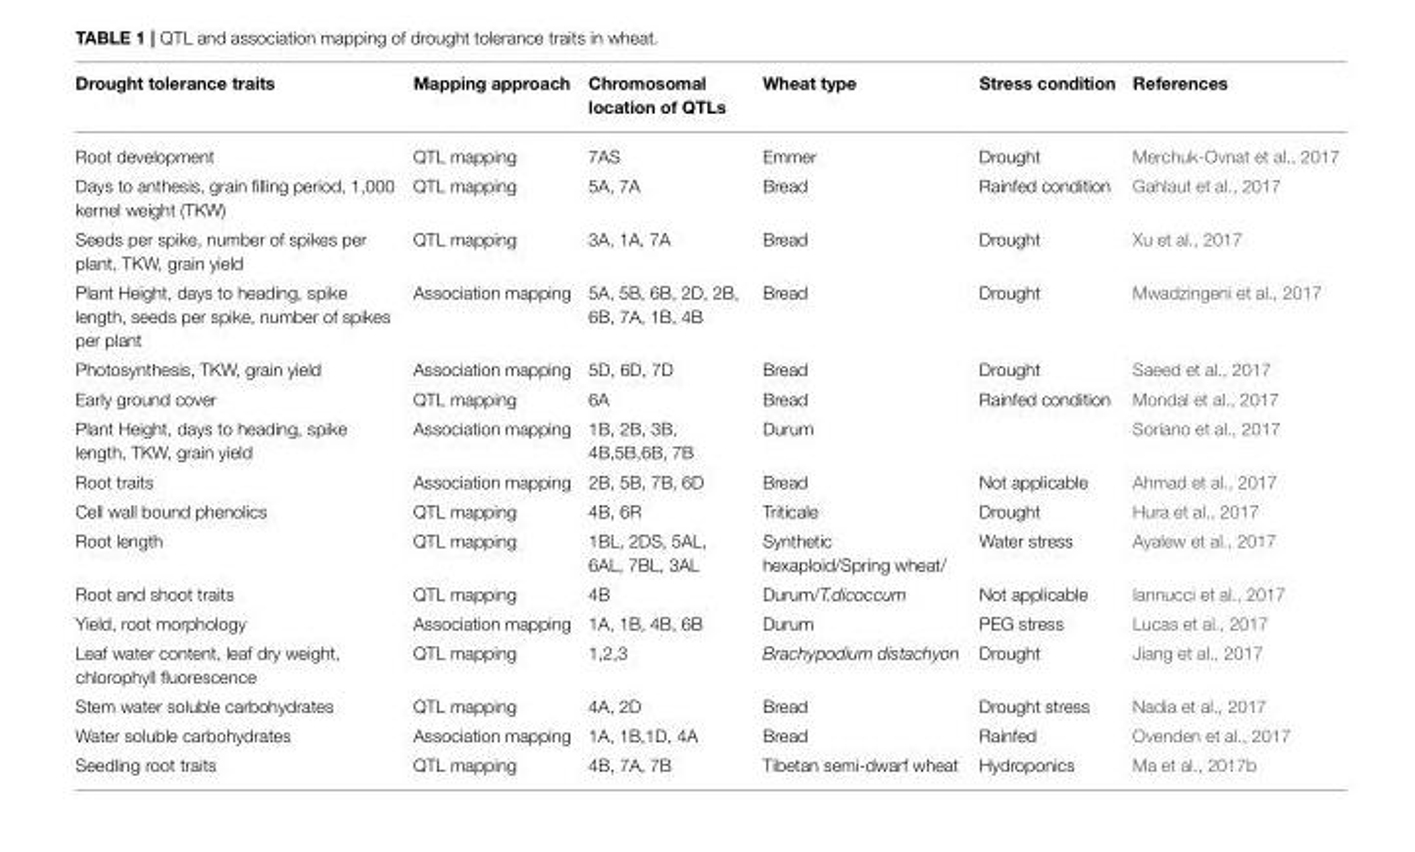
<table><thead><tr><td>Drought tolerance traits</td><td>Mapping approach</td><td>Chromosomal location of QTLs</td><td>Wheat type</td><td>Stress condition</td><td>References</td></tr></thead><tbody><tr><td>Root development</td><td>QTL mapping</td><td>7AS</td><td>Emmer</td><td>Drought</td><td>Merchuk-Ovnat et al., 2017</td></tr><tr><td>Days to anthesis, grain filling period, 1,000 kernel weight (TKW)</td><td>QTL mapping</td><td>5A, 7A</td><td>Bread</td><td>Rainfed condition</td><td>Gahlaut et al., 2017</td></tr><tr><td>Seeds per spike, number of spikes per plant, TKW, grain yield</td><td>QTL mapping</td><td>3A, 1A, 7A</td><td>Bread</td><td>Drought</td><td>Xu et al., 2017</td></tr><tr><td>Plant Height, days to heading, spike length, seeds per spike, number of spikes per plant</td><td>Association mapping</td><td>5A, 5B, 6B, 2D, 2B, 6B, 7A, 1B, 4B</td><td>Bread</td><td>Drought</td><td>Mwadzingeni et al., 2017</td></tr><tr><td>Photosynthesis, TKW, grain yield</td><td>Association mapping</td><td>5D, 6D, 7D</td><td>Bread</td><td>Drought</td><td>Saeed et al., 2017</td></tr><tr><td>Early ground cover</td><td>QTL mapping</td><td>6A</td><td>Bread</td><td>Rainfed condition</td><td>Mondal et al., 2017</td></tr><tr><td>Plant Height, days to heading, spike length, TKW, grain yield</td><td>Association mapping</td><td>1B, 2B, 3B, 4B,5B,6B, 7B</td><td>Durum</td><td></td><td>Soriano et al., 2017</td></tr><tr><td>Root traits</td><td>Association mapping</td><td>2B, 5B, 7B, 6D</td><td>Bread</td><td>Not applicable</td><td>Ahmad et al., 2017</td></tr><tr><td>Cell wall bound phenolics</td><td>QTL mapping</td><td>4B, 6R</td><td>Triticale</td><td>Drought</td><td>Hura et al., 2017</td></tr><tr><td>Root length</td><td>QTL mapping</td><td>1BL, 2DS, 5AL, 6AL, 7BL, 3AL</td><td>Synthetic hexaploid/Spring wheat/</td><td>Water stress</td><td>Ayalew et al., 2017</td></tr><tr><td>Root and shoot traits</td><td>QTL mapping</td><td>4B</td><td>Durum/T.dicoccum</td><td>Not applicable</td><td>Iannucci et al., 2017</td></tr><tr><td>Yield, root morphology</td><td>Association mapping</td><td>1A, 1B, 4B, 6B</td><td>Durum</td><td>PEG stress</td><td>Lucas et al., 2017</td></tr><tr><td>Leaf water content, leaf dry weight, chlorophyll fluorescence</td><td>QTL mapping</td><td>1,2,3</td><td>Brachypodium distachyon</td><td>Drought</td><td>Jiang et al., 2017</td></tr><tr><td>Stem water soluble carbohydrates</td><td>QTL mapping</td><td>4A, 2D</td><td>Bread</td><td>Drought stress</td><td>Nadia et al., 2017</td></tr><tr><td>Water soluble carbohydrates</td><td>Association mapping</td><td>1A, 1B,1D, 4A</td><td>Bread</td><td>Rainfed</td><td>Ovenden et al., 2017</td></tr><tr><td>Seedling root traits</td><td>QTL mapping</td><td>4B, 7A, 7B</td><td>Tibetan semi-dwarf wheat</td><td>Hydroponics</td><td>Ma et al., 2017b</td></tr></tbody></table>